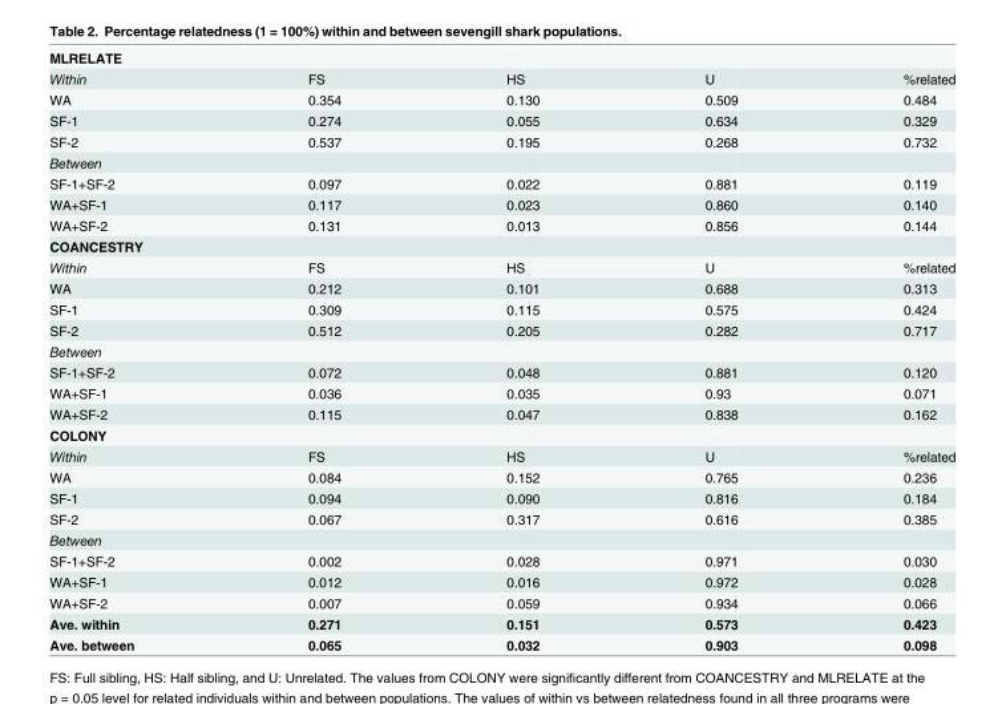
<table><tbody><tr><td colspan="5">MLRELATE</td></tr><tr><td>Within</td><td>FS</td><td>HS</td><td>U</td><td>%related</td></tr><tr><td>WA</td><td>0.354</td><td>0.130</td><td>0.509</td><td>0.484</td></tr><tr><td>SF-1</td><td>0.274</td><td>0.055</td><td>0.634</td><td>0.329</td></tr><tr><td>SF-2</td><td>0.537</td><td>0.195</td><td>0.268</td><td>0.732</td></tr><tr><td colspan="5">Between</td></tr><tr><td>SF-1+SF-2</td><td>0.097</td><td>0.022</td><td>0.881</td><td>0.119</td></tr><tr><td>WA+SF-1</td><td>0.117</td><td>0.023</td><td>0.860</td><td>0.140</td></tr><tr><td>WA+SF-2</td><td>0.131</td><td>0.013</td><td>0.856</td><td>0.144</td></tr><tr><td colspan="5">COANCESTRY</td></tr><tr><td>Within</td><td>FS</td><td>HS</td><td>U</td><td>%related</td></tr><tr><td>WA</td><td>0.212</td><td>0.101</td><td>0.688</td><td>0.313</td></tr><tr><td>SF-1</td><td>0.309</td><td>0.115</td><td>0.575</td><td>0.424</td></tr><tr><td>SF-2</td><td>0.512</td><td>0.205</td><td>0.282</td><td>0.717</td></tr><tr><td colspan="5">Between</td></tr><tr><td>SF-1+SF-2</td><td>0.072</td><td>0.048</td><td>0.881</td><td>0.120</td></tr><tr><td>WA+SF-1</td><td>0.036</td><td>0.035</td><td>0.93</td><td>0.071</td></tr><tr><td>WA+SF-2</td><td>0.115</td><td>0.047</td><td>0.838</td><td>0.162</td></tr><tr><td colspan="5">COLONY</td></tr><tr><td>Within</td><td>FS</td><td>HS</td><td>U</td><td>%related</td></tr><tr><td>WA</td><td>0.084</td><td>0.152</td><td>0.765</td><td>0.236</td></tr><tr><td>SF-1</td><td>0.094</td><td>0.090</td><td>0.816</td><td>0.184</td></tr><tr><td>SF-2</td><td>0.067</td><td>0.317</td><td>0.616</td><td>0.385</td></tr><tr><td colspan="5">Between</td></tr><tr><td>SF-1+SF-2</td><td>0.002</td><td>0.028</td><td>0.971</td><td>0.030</td></tr><tr><td>WA+SF-1</td><td>0.012</td><td>0.016</td><td>0.972</td><td>0.028</td></tr><tr><td>WA+SF-2</td><td>0.007</td><td>0.059</td><td>0.934</td><td>0.066</td></tr><tr><td>Ave. within</td><td>0.271</td><td>0.151</td><td>0.573</td><td>0.423</td></tr><tr><td>Ave. between</td><td>0.065</td><td>0.032</td><td>0.903</td><td>0.098</td></tr></tbody></table>